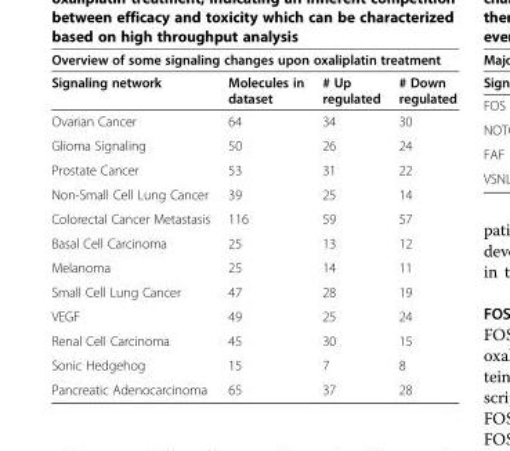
<table><thead><tr><td colspan="4">Overview of some signaling changes upon oxaliplatin treatment</td></tr><tr><td>Signaling network</td><td>Molecules in dataset</td><td># Up regulated</td><td># Down regulated</td></tr></thead><tbody><tr><td>Ovarian Cancer</td><td>64</td><td>34</td><td>30</td></tr><tr><td>Glioma Signaling</td><td>50</td><td>26</td><td>24</td></tr><tr><td>Prostate Cancer</td><td>53</td><td>31</td><td>22</td></tr><tr><td>Non-Small Cell Lung Cancer</td><td>39</td><td>25</td><td>14</td></tr><tr><td>Colorectal Cancer Metastasis</td><td>116</td><td>59</td><td>57</td></tr><tr><td>Basal Cell Carcinoma</td><td>25</td><td>13</td><td>12</td></tr><tr><td>Melanoma</td><td>25</td><td>14</td><td>11</td></tr><tr><td>Small Cell Lung Cancer</td><td>47</td><td>28</td><td>19</td></tr><tr><td>VEGF</td><td>49</td><td>25</td><td>24</td></tr><tr><td>Renal Cell Carcinoma</td><td>45</td><td>30</td><td>15</td></tr><tr><td>Sonic Hedgehog</td><td>15</td><td>7</td><td>8</td></tr><tr><td>Pancreatic Adenocarcinoma</td><td>65</td><td>37</td><td>28</td></tr></tbody></table>